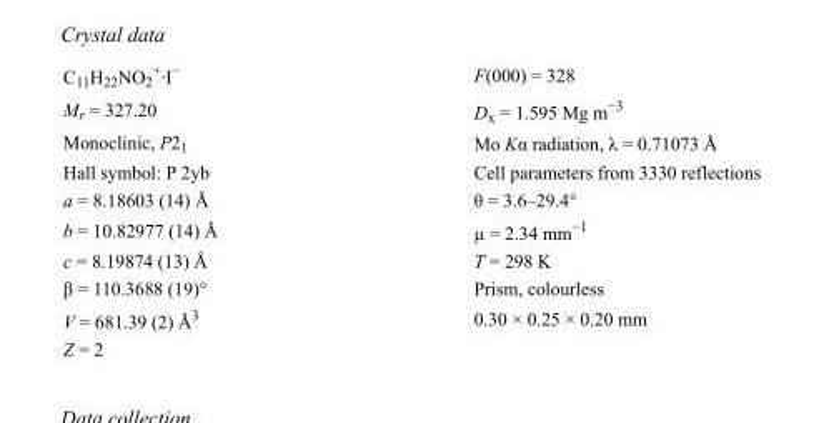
<table><tbody><tr><td>C<sub>11</sub>H<sub>22</sub>NO<sub>2</sub> <sup>+</sup>·I<sup>−</sup></td><td>F(000) = 328</td></tr><tr><td>M<sub>r</sub> = 327.20</td><td>D<sub>x</sub> = 1.595 Mg m<sup>−3</sup></td></tr><tr><td>Monoclinic, P2<sub>1</sub></td><td>Mo Kα radiation, λ = 0.71073 Å</td></tr><tr><td>Hall symbol: P 2yb</td><td>Cell parameters from 3330 reflections</td></tr><tr><td>a = 8.18603 (14) Å</td><td>θ = 3.6–29.4°</td></tr><tr><td>b = 10.82977 (14) Å</td><td>µ = 2.34 mm<sup>−1</sup></td></tr><tr><td>c = 8.19874 (13) Å</td><td>T = 298 K</td></tr><tr><td>β = 110.3688 (19)°</td><td>Prism, colourless</td></tr><tr><td>V = 681.39 (2) Å<sup>3</sup></td><td>0.30 × 0.25 × 0.20 mm</td></tr><tr><td>Z = 2</td><td></td></tr></tbody></table>